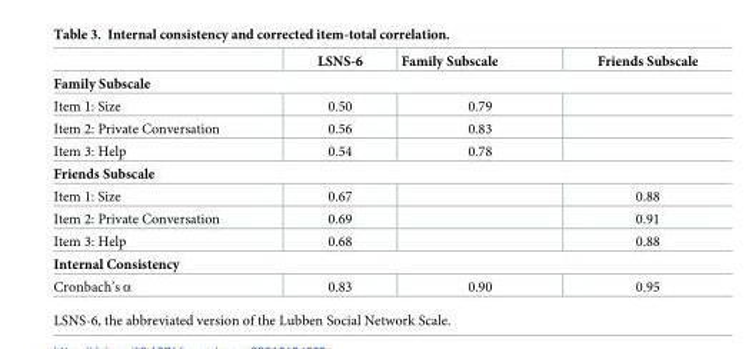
<table><thead><tr><td></td><td>LSNS-6</td><td>Family Subscale</td><td>Friends Subscale</td></tr></thead><tbody><tr><td colspan="4">Family Subscale</td></tr><tr><td>Item 1: Size</td><td>0.50</td><td>0.79</td><td></td></tr><tr><td>Item 2: Private Conversation</td><td>0.56</td><td>0.83</td><td></td></tr><tr><td>Item 3: Help</td><td>0.54</td><td>0.78</td><td></td></tr><tr><td colspan="4">Friends Subscale</td></tr><tr><td>Item 1: Size</td><td>0.67</td><td></td><td>0.88</td></tr><tr><td>Item 2: Private Conversation</td><td>0.69</td><td></td><td>0.91</td></tr><tr><td>Item 3: Help</td><td>0.68</td><td></td><td>0.88</td></tr><tr><td colspan="4">Internal Consistency</td></tr><tr><td>Cronbach’s α</td><td>0.83</td><td>0.90</td><td>0.95</td></tr></tbody></table>